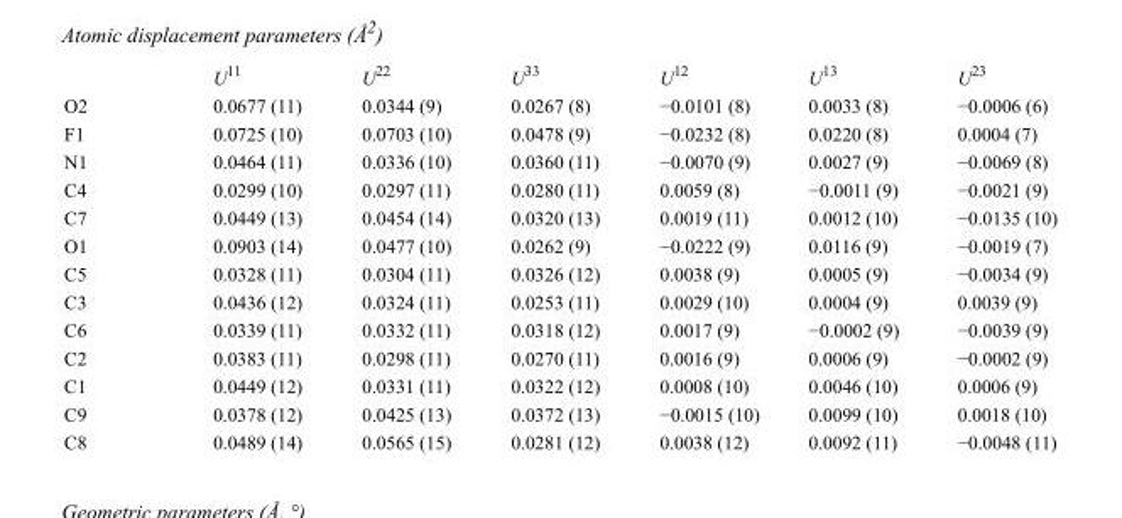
<table><thead><tr><td></td><td>U<sup>11</sup></td><td>U<sup>22</sup></td><td>U<sup>33</sup></td><td>U<sup>12</sup></td><td>U<sup>13</sup></td><td>U<sup>23</sup></td></tr></thead><tbody><tr><td>O2</td><td>0.0677 (11)</td><td>0.0344 (9)</td><td>0.0267 (8)</td><td>−0.0101 (8)</td><td>0.0033 (8)</td><td>−0.0006 (6)</td></tr><tr><td>F1</td><td>0.0725 (10)</td><td>0.0703 (10)</td><td>0.0478 (9)</td><td>−0.0232 (8)</td><td>0.0220 (8)</td><td>0.0004 (7)</td></tr><tr><td>N1</td><td>0.0464 (11)</td><td>0.0336 (10)</td><td>0.0360 (11)</td><td>−0.0070 (9)</td><td>0.0027 (9)</td><td>−0.0069 (8)</td></tr><tr><td>C4</td><td>0.0299 (10)</td><td>0.0297 (11)</td><td>0.0280 (11)</td><td>0.0059 (8)</td><td>−0.0011 (9)</td><td>−0.0021 (9)</td></tr><tr><td>C7</td><td>0.0449 (13)</td><td>0.0454 (14)</td><td>0.0320 (13)</td><td>0.0019 (11)</td><td>0.0012 (10)</td><td>−0.0135 (10)</td></tr><tr><td>O1</td><td>0.0903 (14)</td><td>0.0477 (10)</td><td>0.0262 (9)</td><td>−0.0222 (9)</td><td>0.0116 (9)</td><td>−0.0019 (7)</td></tr><tr><td>C5</td><td>0.0328 (11)</td><td>0.0304 (11)</td><td>0.0326 (12)</td><td>0.0038 (9)</td><td>0.0005 (9)</td><td>−0.0034 (9)</td></tr><tr><td>C3</td><td>0.0436 (12)</td><td>0.0324 (11)</td><td>0.0253 (11)</td><td>0.0029 (10)</td><td>0.0004 (9)</td><td>0.0039 (9)</td></tr><tr><td>C6</td><td>0.0339 (11)</td><td>0.0332 (11)</td><td>0.0318 (12)</td><td>0.0017 (9)</td><td>−0.0002 (9)</td><td>−0.0039 (9)</td></tr><tr><td>C2</td><td>0.0383 (11)</td><td>0.0298 (11)</td><td>0.0270 (11)</td><td>0.0016 (9)</td><td>0.0006 (9)</td><td>−0.0002 (9)</td></tr><tr><td>C1</td><td>0.0449 (12)</td><td>0.0331 (11)</td><td>0.0322 (12)</td><td>0.0008 (10)</td><td>0.0046 (10)</td><td>0.0006 (9)</td></tr><tr><td>C9</td><td>0.0378 (12)</td><td>0.0425 (13)</td><td>0.0372 (13)</td><td>−0.0015 (10)</td><td>0.0099 (10)</td><td>0.0018 (10)</td></tr><tr><td>C8</td><td>0.0489 (14)</td><td>0.0565 (15)</td><td>0.0281 (12)</td><td>0.0038 (12)</td><td>0.0092 (11)</td><td>−0.0048 (11)</td></tr></tbody></table>